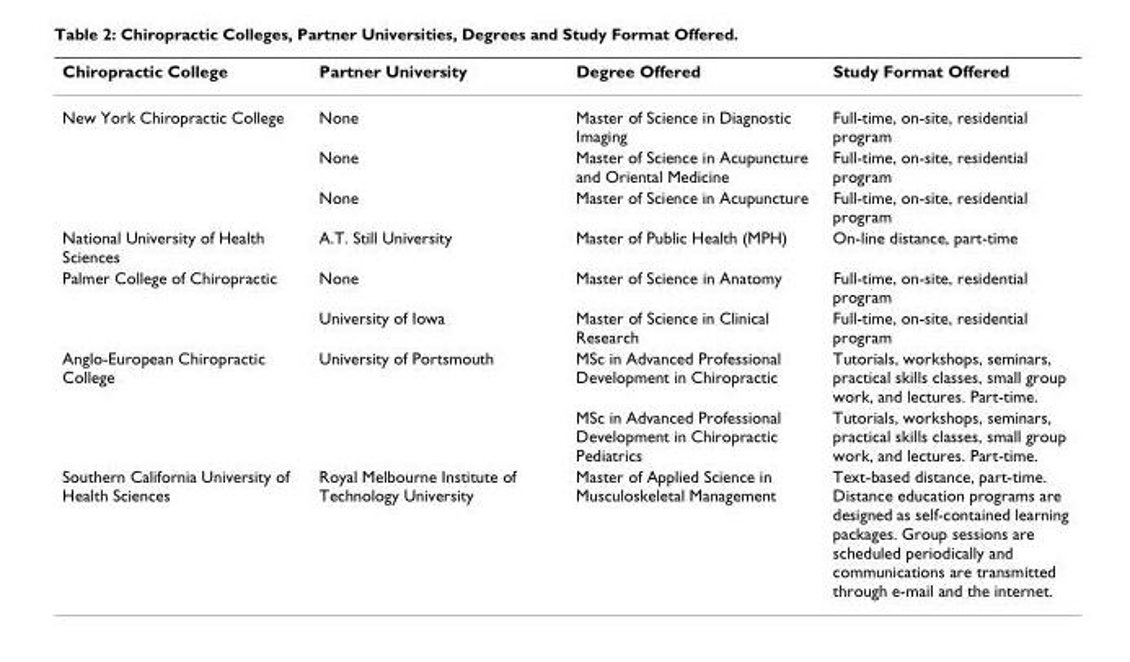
<table><thead><tr><td>Chiropractic College</td><td>Partner University</td><td>Degree Offered</td><td>Study Format Offered</td></tr></thead><tbody><tr><td rowspan="3">New York Chiropractic College</td><td>None</td><td>Master of Science in Diagnostic Imaging</td><td>Full-time, on-site, residential program</td></tr><tr><td>None</td><td>Master of Science in Acupuncture and Oriental Medicine</td><td>Full-time, on-site, residential program</td></tr><tr><td>None</td><td>Master of Science in Acupuncture</td><td>Full-time, on-site, residential program</td></tr><tr><td>National University of Health Sciences</td><td>A.T. Still University</td><td>Master of Public Health (MPH)</td><td>On-line distance, part-time</td></tr><tr><td rowspan="2">Palmer College of Chiropractic</td><td>None</td><td>Master of Science in Anatomy</td><td>Full-time, on-site, residential program</td></tr><tr><td>University of Iowa</td><td>Master of Science in Clinical Research</td><td>Full-time, on-site, residential program</td></tr><tr><td rowspan="2">Anglo-European Chiropractic College</td><td>University of Portsmouth</td><td>MSc in Advanced Professional Development in Chiropractic</td><td>Tutorials, workshops, seminars, practical skills classes, small group work, and lectures. Part-time.</td></tr><tr><td></td><td>MSc in Advanced Professional Development in Chiropractic Pediatrics</td><td>Tutorials, workshops, seminars, practical skills classes, small group work, and lectures. Part-time.</td></tr><tr><td>Southern California University of Health Sciences</td><td>Royal Melbourne Institute of Technology University</td><td>Master of Applied Science in Musculoskeletal Management</td><td>Text-based distance, part-time. Distance education programs are designed as self-contained learning packages. Group sessions are scheduled periodically and communications are transmitted through e-mail and the internet.</td></tr></tbody></table>